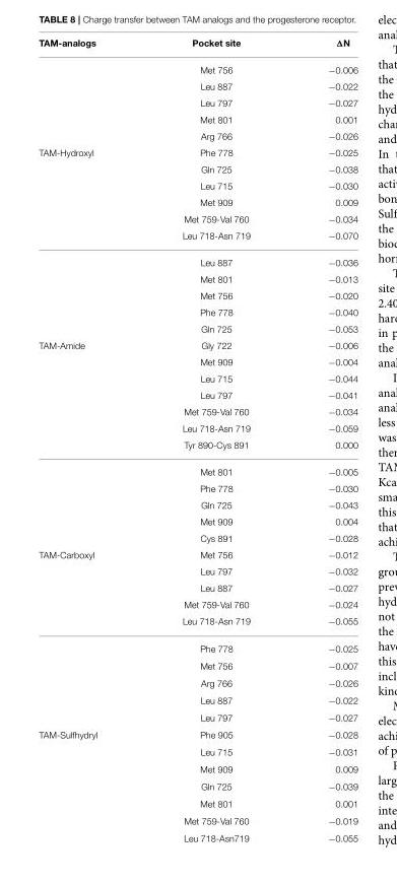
<table><thead><tr><td>TAM-analogs</td><td>Pocket site</td><td>ΔN</td></tr></thead><tbody><tr><td></td><td>Met 756</td><td>−0.006</td></tr><tr><td></td><td>Leu 887</td><td>−0.022</td></tr><tr><td></td><td>Leu 797</td><td>−0.027</td></tr><tr><td></td><td>Met 801</td><td>0.001</td></tr><tr><td></td><td>Arg 766</td><td>−0.026</td></tr><tr><td rowspan="11">TAM-Hydroxyl</td><td>Phe 778</td><td>−0.025</td></tr><tr><td>Gln 725</td><td>−0.038</td></tr><tr><td>Leu 715</td><td>−0.030</td></tr><tr><td>Met 909</td><td>0.009</td></tr><tr><td>Met 759-Val 760</td><td>−0.034</td></tr><tr><td>Leu 718-Asn 719</td><td>−0.070</td></tr><tr><td>Leu 887</td><td>−0.036</td></tr><tr><td>Met 801</td><td>−0.013</td></tr><tr><td>Met 756</td><td>−0.020</td></tr><tr><td>Phe 778</td><td>−0.040</td></tr><tr><td>Gln 725</td><td>−0.053</td></tr><tr><td rowspan="12">TAM-Amide</td><td>Gly 722</td><td>−0.006</td></tr><tr><td>Met 909</td><td>−0.004</td></tr><tr><td>Leu 715</td><td>−0.044</td></tr><tr><td>Leu 797</td><td>−0.041</td></tr><tr><td>Met 759-Val 760</td><td>−0.034</td></tr><tr><td>Leu 718-Asn 719</td><td>−0.059</td></tr><tr><td>Tyr 890-Cys 891</td><td>0.000</td></tr><tr><td>Met 801</td><td>−0.005</td></tr><tr><td>Phe 778</td><td>−0.030</td></tr><tr><td>Gln 725</td><td>−0.043</td></tr><tr><td>Met 909</td><td>0.004</td></tr><tr><td>Cys 891</td><td>−0.028</td></tr><tr><td rowspan="10">TAM-Carboxyl</td><td>Met 756</td><td>−0.012</td></tr><tr><td>Leu 797</td><td>−0.032</td></tr><tr><td>Leu 887</td><td>−0.027</td></tr><tr><td>Met 759-Val 760</td><td>−0.024</td></tr><tr><td>Leu 718-Asn 719</td><td>−0.055</td></tr><tr><td>Phe 778</td><td>−0.025</td></tr><tr><td>Met 756</td><td>−0.007</td></tr><tr><td>Arg 766</td><td>−0.026</td></tr><tr><td>Leu 887</td><td>−0.022</td></tr><tr><td>Leu 797</td><td>−0.027</td></tr><tr><td rowspan="7">TAM-Sulfhydryl</td><td>Phe 905</td><td>−0.028</td></tr><tr><td>Leu 715</td><td>−0.031</td></tr><tr><td>Met 909</td><td>0.009</td></tr><tr><td>Gln 725</td><td>−0.039</td></tr><tr><td>Met 801</td><td>0.001</td></tr><tr><td>Met 759-Val 760</td><td>−0.019</td></tr><tr><td>Leu 718-Asn719</td><td>−0.055</td></tr></tbody></table>